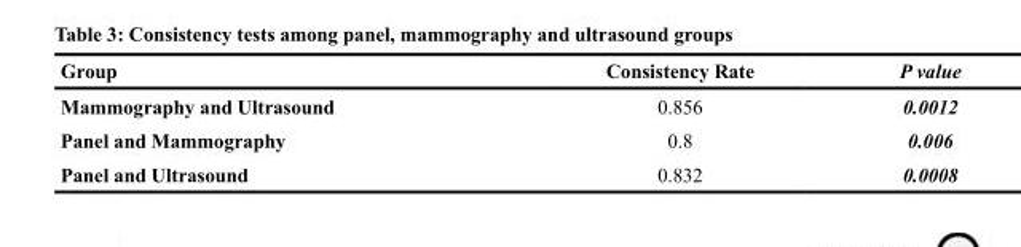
<table><thead><tr><td>Group</td><td>Consistency Rate</td><td>P value</td></tr></thead><tbody><tr><td>Mammography and Ultrasound</td><td>0.856</td><td>0.0012</td></tr><tr><td>Panel and Mammography</td><td>0.8</td><td>0.006</td></tr><tr><td>Panel and Ultrasound</td><td>0.832</td><td>0.0008</td></tr></tbody></table>